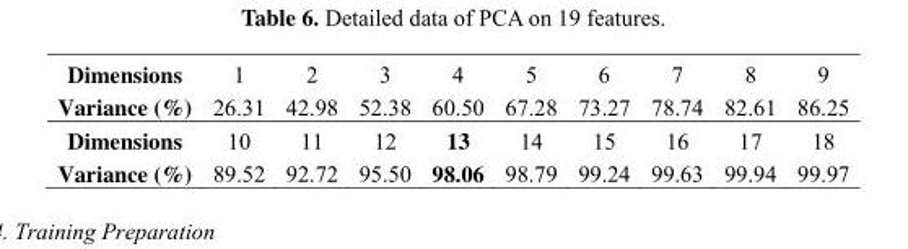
<table><tbody><tr><td>Dimensions</td><td>1</td><td>2</td><td>3</td><td>4</td><td>5</td><td>6</td><td>7</td><td>8</td><td>9</td></tr><tr><td>Variance (%)</td><td>26.31</td><td>42.98</td><td>52.38</td><td>60.50</td><td>67.28</td><td>73.27</td><td>78.74</td><td>82.61</td><td>86.25</td></tr><tr><td>Dimensions</td><td>10</td><td>11</td><td>12</td><td>13</td><td>14</td><td>15</td><td>16</td><td>17</td><td>18</td></tr><tr><td>Variance (%)</td><td>89.52</td><td>92.72</td><td>95.50</td><td>98.06</td><td>98.79</td><td>99.24</td><td>99.63</td><td>99.94</td><td>99.97</td></tr></tbody></table>